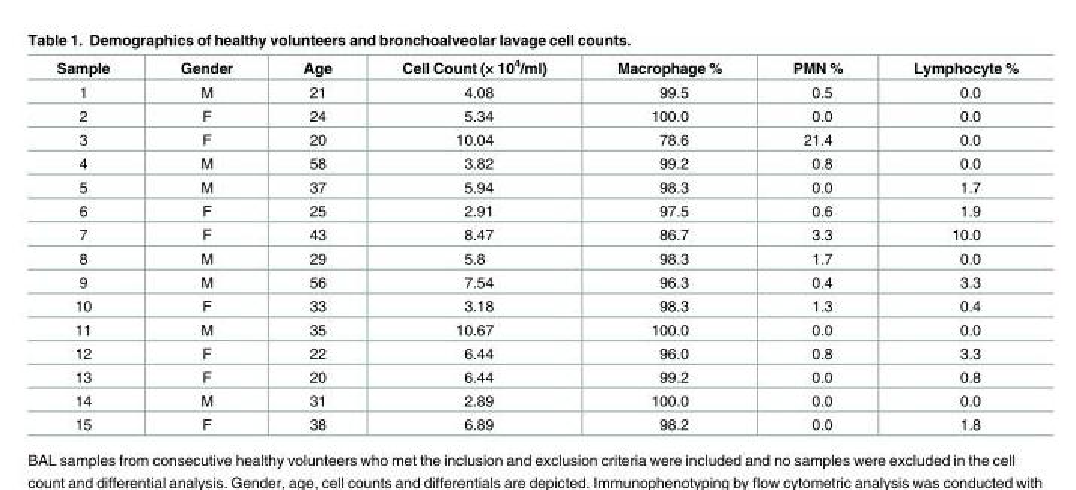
<table><thead><tr><td>Sample</td><td>Gender</td><td>Age</td><td>Cell Count (× 10<sup>4</sup>/ml)</td><td>Macrophage %</td><td>PMN %</td><td>Lymphocyte %</td></tr></thead><tbody><tr><td>1</td><td>M</td><td>21</td><td>4.08</td><td>99.5</td><td>0.5</td><td>0.0</td></tr><tr><td>2</td><td>F</td><td>24</td><td>5.34</td><td>100.0</td><td>0.0</td><td>0.0</td></tr><tr><td>3</td><td>F</td><td>20</td><td>10.04</td><td>78.6</td><td>21.4</td><td>0.0</td></tr><tr><td>4</td><td>M</td><td>58</td><td>3.82</td><td>99.2</td><td>0.8</td><td>0.0</td></tr><tr><td>5</td><td>M</td><td>37</td><td>5.94</td><td>98.3</td><td>0.0</td><td>1.7</td></tr><tr><td>6</td><td>F</td><td>25</td><td>2.91</td><td>97.5</td><td>0.6</td><td>1.9</td></tr><tr><td>7</td><td>F</td><td>43</td><td>8.47</td><td>86.7</td><td>3.3</td><td>10.0</td></tr><tr><td>8</td><td>M</td><td>29</td><td>5.8</td><td>98.3</td><td>1.7</td><td>0.0</td></tr><tr><td>9</td><td>M</td><td>56</td><td>7.54</td><td>96.3</td><td>0.4</td><td>3.3</td></tr><tr><td>10</td><td>F</td><td>33</td><td>3.18</td><td>98.3</td><td>1.3</td><td>0.4</td></tr><tr><td>11</td><td>M</td><td>35</td><td>10.67</td><td>100.0</td><td>0.0</td><td>0.0</td></tr><tr><td>12</td><td>F</td><td>22</td><td>6.44</td><td>96.0</td><td>0.8</td><td>3.3</td></tr><tr><td>13</td><td>F</td><td>20</td><td>6.44</td><td>99.2</td><td>0.0</td><td>0.8</td></tr><tr><td>14</td><td>M</td><td>31</td><td>2.89</td><td>100.0</td><td>0.0</td><td>0.0</td></tr><tr><td>15</td><td>F</td><td>38</td><td>6.89</td><td>98.2</td><td>0.0</td><td>1.8</td></tr></tbody></table>